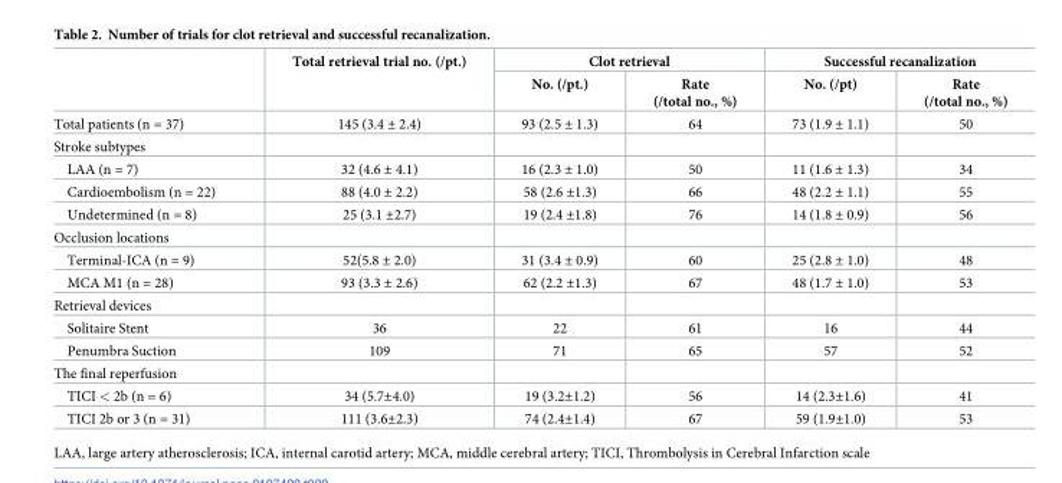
<table><thead><tr><td rowspan="2"></td><td rowspan="2">Total retrieval trial no. (/pt.)</td><td colspan="2">Clot retrieval</td><td colspan="2">Successful recanalization</td></tr><tr><td>No. (/pt.)</td><td>Rate (/total no., %)</td><td>No. (/pt)</td><td>Rate (/total no., %)</td></tr></thead><tbody><tr><td>Total patients (n = 37)</td><td>145 (3.4 ± 2.4)</td><td>93 (2.5 ± 1.3)</td><td>64</td><td>73 (1.9 ± 1.1)</td><td>50</td></tr><tr><td colspan="6">Stroke subtypes</td></tr><tr><td>LAA (n = 7)</td><td>32 (4.6 ± 4.1)</td><td>16 (2.3 ± 1.0)</td><td>50</td><td>11 (1.6 ± 1.3)</td><td>34</td></tr><tr><td>Cardioembolism (n = 22)</td><td>88 (4.0 ± 2.2)</td><td>58 (2.6 ±1.3)</td><td>66</td><td>48 (2.2 ± 1.1)</td><td>55</td></tr><tr><td>Undetermined (n = 8)</td><td>25 (3.1 ±2.7)</td><td>19 (2.4 ±1.8)</td><td>76</td><td>14 (1.8 ± 0.9)</td><td>56</td></tr><tr><td colspan="6">Occlusion locations</td></tr><tr><td>Terminal-ICA (n = 9)</td><td>52(5.8 ± 2.0)</td><td>31 (3.4 ± 0.9)</td><td>60</td><td>25 (2.8 ± 1.0)</td><td>48</td></tr><tr><td>MCA M1 (n = 28)</td><td>93 (3.3 ± 2.6)</td><td>62 (2.2 ±1.3)</td><td>67</td><td>48 (1.7 ± 1.0)</td><td>53</td></tr><tr><td colspan="6">Retrieval devices</td></tr><tr><td>Solitaire Stent</td><td>36</td><td>22</td><td>61</td><td>16</td><td>44</td></tr><tr><td>Penumbra Suction</td><td>109</td><td>71</td><td>65</td><td>57</td><td>52</td></tr><tr><td colspan="6">The final reperfusion</td></tr><tr><td>TICI &lt; 2b (n = 6)</td><td>34 (5.7±4.0)</td><td>19 (3.2±1.2)</td><td>56</td><td>14 (2.3±1.6)</td><td>41</td></tr><tr><td>TICI 2b or 3 (n = 31)</td><td>111 (3.6±2.3)</td><td>74 (2.4±1.4)</td><td>67</td><td>59 (1.9±1.0)</td><td>53</td></tr></tbody></table>